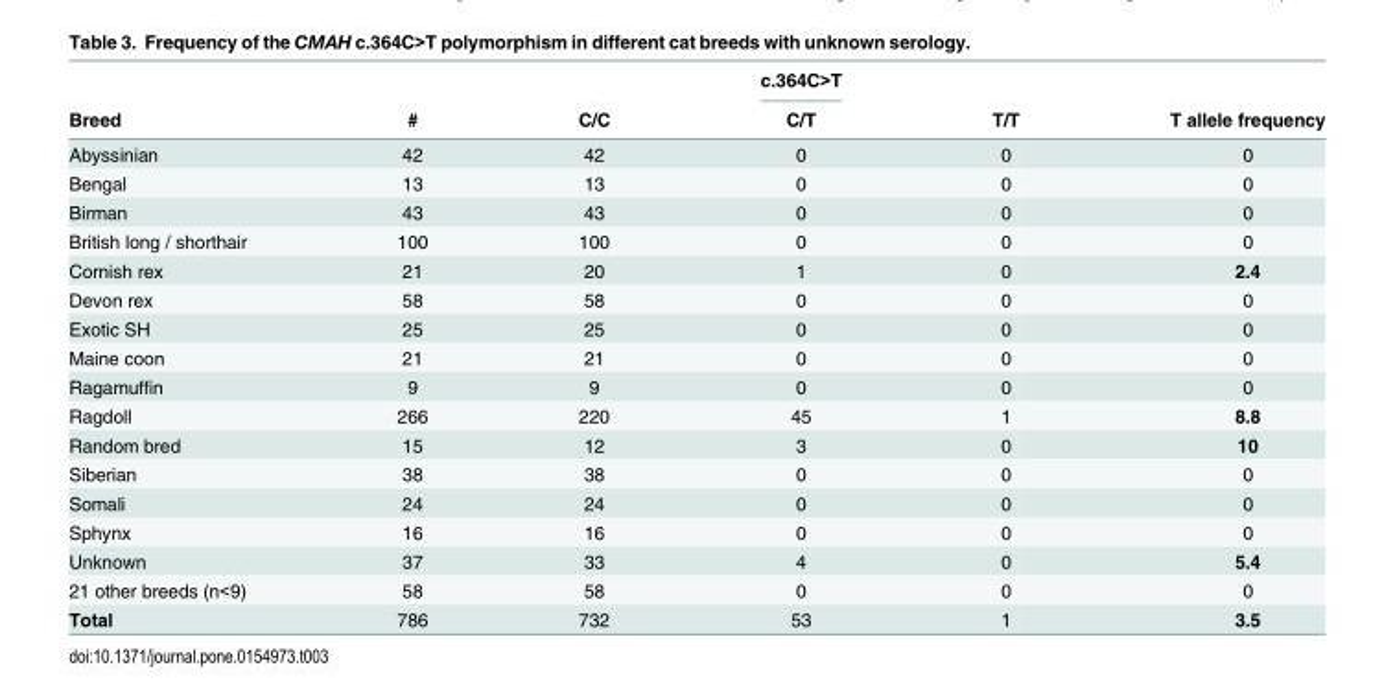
<table><thead><tr><td rowspan="2">Breed</td><td rowspan="2">#</td><td rowspan="2">C/C</td><td rowspan="2">c.364C&gt;T C/T</td><td rowspan="2">T/T</td><td rowspan="2">T allele frequency</td></tr><tr></tr></thead><tbody><tr><td>Abyssinian</td><td>42</td><td>42</td><td>0</td><td>0</td><td>0</td></tr><tr><td>Bengal</td><td>13</td><td>13</td><td>0</td><td>0</td><td>0</td></tr><tr><td>Birman</td><td>43</td><td>43</td><td>0</td><td>0</td><td>0</td></tr><tr><td>British long / shorthair</td><td>100</td><td>100</td><td>0</td><td>0</td><td>0</td></tr><tr><td>Cornish rex</td><td>21</td><td>20</td><td>1</td><td>0</td><td>2.4</td></tr><tr><td>Devon rex</td><td>58</td><td>58</td><td>0</td><td>0</td><td>0</td></tr><tr><td>Exotic SH</td><td>25</td><td>25</td><td>0</td><td>0</td><td>0</td></tr><tr><td>Maine coon</td><td>21</td><td>21</td><td>0</td><td>0</td><td>0</td></tr><tr><td>Ragamuffin</td><td>9</td><td>9</td><td>0</td><td>0</td><td>0</td></tr><tr><td>Ragdoll</td><td>266</td><td>220</td><td>45</td><td>1</td><td>8.8</td></tr><tr><td>Random bred</td><td>15</td><td>12</td><td>3</td><td>0</td><td>10</td></tr><tr><td>Siberian</td><td>38</td><td>38</td><td>0</td><td>0</td><td>0</td></tr><tr><td>Somali</td><td>24</td><td>24</td><td>0</td><td>0</td><td>0</td></tr><tr><td>Sphynx</td><td>16</td><td>16</td><td>0</td><td>0</td><td>0</td></tr><tr><td>Unknown</td><td>37</td><td>33</td><td>4</td><td>0</td><td>5.4</td></tr><tr><td>21 other breeds (n&lt;9)</td><td>58</td><td>58</td><td>0</td><td>0</td><td>0</td></tr><tr><td>Total</td><td>786</td><td>732</td><td>53</td><td>1</td><td>3.5</td></tr></tbody></table>